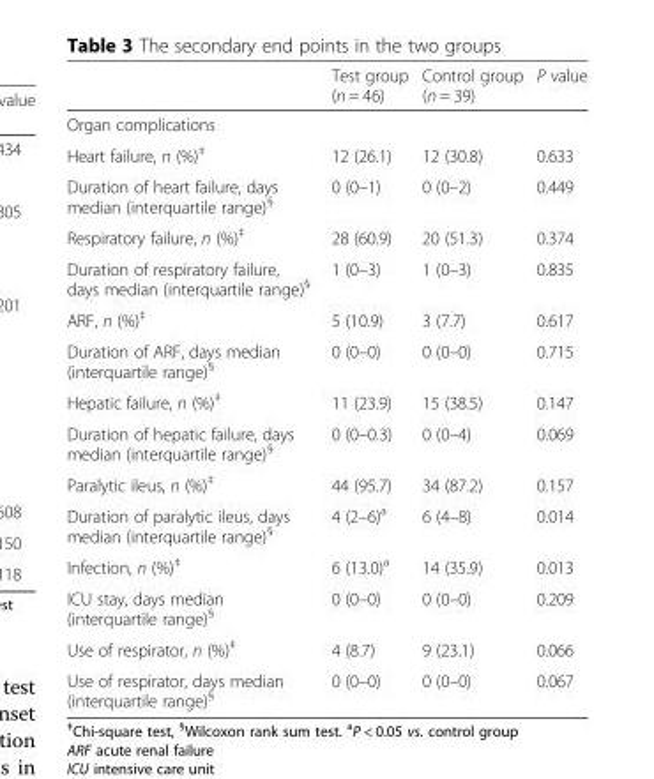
<table><thead><tr><td></td><td>Test group (n = 46)</td><td>Control group (n = 39)</td><td>P value</td></tr></thead><tbody><tr><td colspan="4">Organ complications</td></tr><tr><td>Heart failure, n (%)<sup>‡</sup></td><td>12 (26.1)</td><td>12 (30.8)</td><td>0.633</td></tr><tr><td>Duration of heart failure, days median (interquartile range)<sup>§</sup></td><td>0 (0–1)</td><td>0 (0–2)</td><td>0.449</td></tr><tr><td>Respiratory failure, n (%)<sup>‡</sup></td><td>28 (60.9)</td><td>20 (51.3)</td><td>0.374</td></tr><tr><td>Duration of respiratory failure, days median (interquartile range)<sup>§</sup></td><td>1 (0–3)</td><td>1 (0–3)</td><td>0.835</td></tr><tr><td>ARF, n (%)<sup>‡</sup></td><td>5 (10.9)</td><td>3 (7.7)</td><td>0.617</td></tr><tr><td>Duration of ARF, days median (interquartile range)<sup>§</sup></td><td>0 (0–0)</td><td>0 (0–0)</td><td>0.715</td></tr><tr><td>Hepatic failure, n (%)<sup>‡</sup></td><td>11 (23.9)</td><td>15 (38.5)</td><td>0.147</td></tr><tr><td>Duration of hepatic failure, days median (interquartile range)<sup>§</sup></td><td>0 (0–0.3)</td><td>0 (0–4)</td><td>0.069</td></tr><tr><td>Paralytic ileus, n (%)<sup>‡</sup></td><td>44 (95.7)</td><td>34 (87.2)</td><td>0.157</td></tr><tr><td>Duration of paralytic ileus, days median (interquartile range)<sup>§</sup></td><td>4 (2–6)<sup>a</sup></td><td>6 (4–8)</td><td>0.014</td></tr><tr><td>Infection, n (%)<sup>‡</sup></td><td>6 (13.0)<sup>a</sup></td><td>14 (35.9)</td><td>0.013</td></tr><tr><td>ICU stay, days median (interquartile range)<sup>§</sup></td><td>0 (0–0)</td><td>0 (0–0)</td><td>0.209</td></tr><tr><td>Use of respirator, n (%)<sup>‡</sup></td><td>4 (8.7)</td><td>9 (23.1)</td><td>0.066</td></tr><tr><td>Use of respirator, days median (interquartile range)<sup>§</sup></td><td>0 (0–0)</td><td>0 (0–0)</td><td>0.067</td></tr></tbody></table>